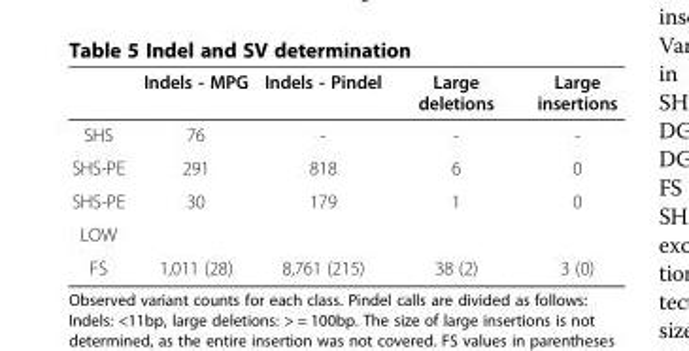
<table><thead><tr><td></td><td>Indels - MPG</td><td>Indels - Pindel</td><td>Large deletions</td><td>Large insertions</td></tr></thead><tbody><tr><td>SHS</td><td>76</td><td>-</td><td>-</td><td>-</td></tr><tr><td>SHS-PE</td><td>291</td><td>818</td><td>6</td><td>0</td></tr><tr><td>SHS-PE</td><td rowspan="2">30</td><td rowspan="2">179</td><td rowspan="2">1</td><td rowspan="2">0</td></tr><tr><td>LOW</td></tr><tr><td>FS</td><td>1,011 (28)</td><td>8,761 (215)</td><td>38 (2)</td><td>3 (0)</td></tr></tbody></table>